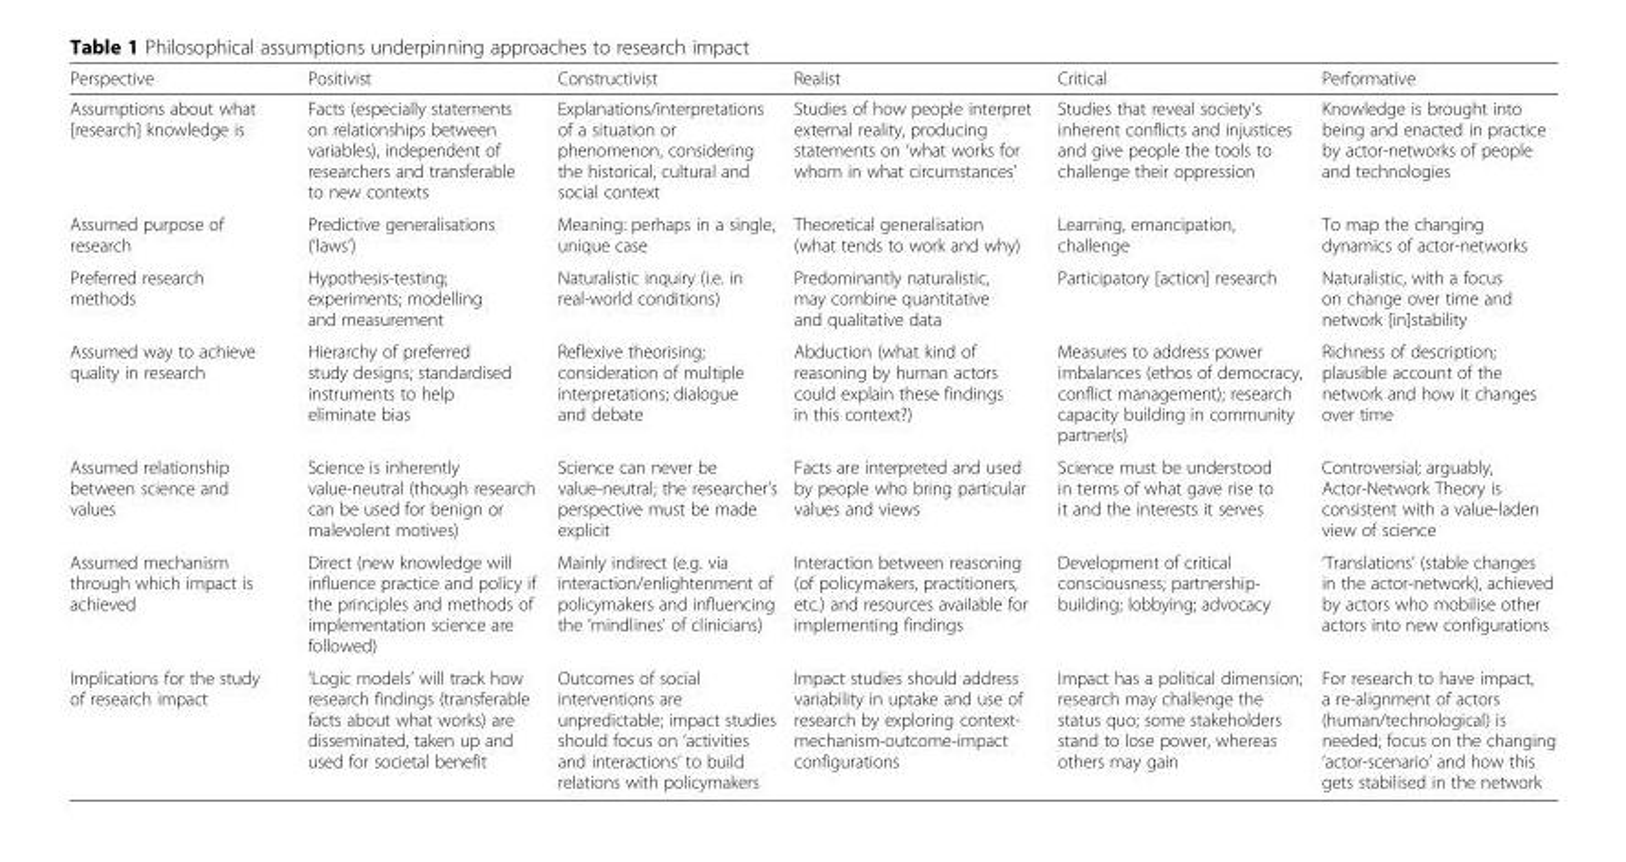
<table><thead><tr><td>Perspective</td><td>Positivist</td><td>Constructivist</td><td>Realist</td><td>Critical</td><td>Performative</td></tr></thead><tbody><tr><td>Assumptions about what [research] knowledge is</td><td>Facts (especially statements on relationships between variables), independent of researchers and transferable to new contexts</td><td>Explanations/interpretations of a situation or phenomenon, considering the historical, cultural and social context</td><td>Studies of how people interpret external reality, producing statements on ‘what works for whom in what circumstances’</td><td>Studies that reveal society’s inherent conflicts and injustices and give people the tools to challenge their oppression</td><td>Knowledge is brought into being and enacted in practice by actor-networks of people and technologies</td></tr><tr><td>Assumed purpose of research</td><td>Predictive generalisations (‘laws’)</td><td>Meaning: perhaps in a single, unique case</td><td>Theoretical generalisation (what tends to work and why)</td><td>Learning, emancipation, challenge</td><td>To map the changing dynamics of actor-networks</td></tr><tr><td>Preferred research methods</td><td>Hypothesis-testing; experiments; modelling and measurement</td><td>Naturalistic inquiry (i.e. in real-world conditions)</td><td>Predominantly naturalistic, may combine quantitative and qualitative data</td><td>Participatory [action] research</td><td>Naturalistic, with a focus on change over time and network [in]stability</td></tr><tr><td>Assumed way to achieve quality in research</td><td>Hierarchy of preferred study designs; standardised instruments to help eliminate bias</td><td>Reflexive theorising; consideration of multiple interpretations; dialogue and debate</td><td>Abduction (what kind of reasoning by human actors could explain these findings in this context?)</td><td>Measures to address power imbalances (ethos of democracy, conflict management); research capacity building in community partner(s)</td><td>Richness of description; plausible account of the network and how it changes over time</td></tr><tr><td>Assumed relationship between science and values</td><td>Science is inherently value-neutral (though research can be used for benign or malevolent motives)</td><td>Science can never be value-neutral; the researcher’s perspective must be made explicit</td><td>Facts are interpreted and used by people who bring particular values and views</td><td>Science must be understood in terms of what gave rise to it and the interests it serves</td><td>Controversial; arguably, Actor-Network Theory is consistent with a value-laden view of science</td></tr><tr><td>Assumed mechanism through which impact is achieved</td><td>Direct (new knowledge will influence practice and policy if the principles and methods of implementation science are followed)</td><td>Mainly indirect (e.g. via interaction/enlightenment of policymakers and influencing the ‘mindlines’ of clinicians)</td><td>Interaction between reasoning (of policymakers, practitioners, etc.) and resources available for implementing findings</td><td>Development of critical consciousness; partnership- building; lobbying; advocacy</td><td>‘Translations’ (stable changes in the actor-network), achieved by actors who mobilise other actors into new configurations</td></tr><tr><td>Implications for the study of research impact</td><td>‘Logic models’ will track how research findings (transferable facts about what works) are disseminated, taken up and used for societal benefit</td><td>Outcomes of social interventions are unpredictable; impact studies should focus on ‘activities and interactions’ to build relations with policymakers</td><td>Impact studies should address variability in uptake and use of research by exploring context- mechanism-outcome-impact configurations</td><td>Impact has a political dimension; research may challenge the status quo; some stakeholders stand to lose power, whereas others may gain</td><td>For research to have impact, a re-alignment of actors (human/technological) is needed; focus on the changing ‘actor-scenario’ and how this gets stabilised in the network</td></tr></tbody></table>